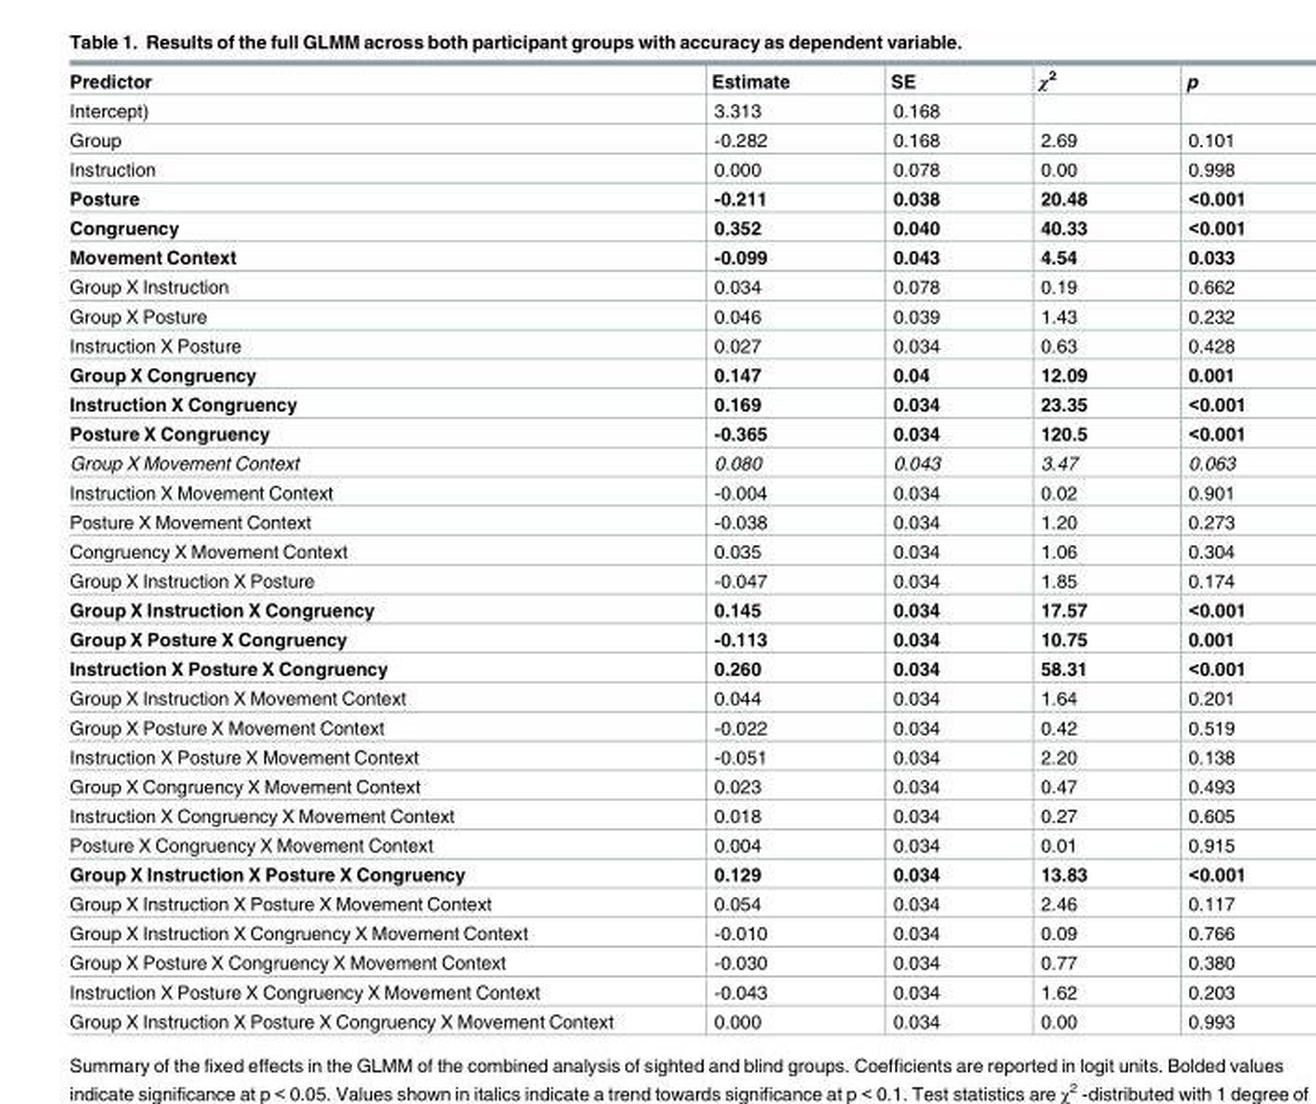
<table><thead><tr><td>Predictor</td><td>Estimate</td><td>SE</td><td>χ<sup>2</sup></td><td>p</td></tr></thead><tbody><tr><td>Intercept)</td><td>3.313</td><td>0.168</td><td></td><td></td></tr><tr><td>Group</td><td>-0.282</td><td>0.168</td><td>2.69</td><td>0.101</td></tr><tr><td>Instruction</td><td>0.000</td><td>0.078</td><td>0.00</td><td>0.998</td></tr><tr><td>Posture</td><td>-0.211</td><td>0.038</td><td>20.48</td><td>&lt;0.001</td></tr><tr><td>Congruency</td><td>0.352</td><td>0.040</td><td>40.33</td><td>&lt;0.001</td></tr><tr><td>Movement Context</td><td>-0.099</td><td>0.043</td><td>4.54</td><td>0.033</td></tr><tr><td>Group X Instruction</td><td>0.034</td><td>0.078</td><td>0.19</td><td>0.662</td></tr><tr><td>Group X Posture</td><td>0.046</td><td>0.039</td><td>1.43</td><td>0.232</td></tr><tr><td>Instruction X Posture</td><td>0.027</td><td>0.034</td><td>0.63</td><td>0.428</td></tr><tr><td>Group X Congruency</td><td>0.147</td><td>0.04</td><td>12.09</td><td>0.001</td></tr><tr><td>Instruction X Congruency</td><td>0.169</td><td>0.034</td><td>23.35</td><td>&lt;0.001</td></tr><tr><td>Posture X Congruency</td><td>-0.365</td><td>0.034</td><td>120.5</td><td>&lt;0.001</td></tr><tr><td>Group X Movement Context</td><td>0.080</td><td>0.043</td><td>3.47</td><td>0.063</td></tr><tr><td>Instruction X Movement Context</td><td>-0.004</td><td>0.034</td><td>0.02</td><td>0.901</td></tr><tr><td>Posture X Movement Context</td><td>-0.038</td><td>0.034</td><td>1.20</td><td>0.273</td></tr><tr><td>Congruency X Movement Context</td><td>0.035</td><td>0.034</td><td>1.06</td><td>0.304</td></tr><tr><td>Group X Instruction X Posture</td><td>-0.047</td><td>0.034</td><td>1.85</td><td>0.174</td></tr><tr><td>Group X Instruction X Congruency</td><td>0.145</td><td>0.034</td><td>17.57</td><td>&lt;0.001</td></tr><tr><td>Group X Posture X Congruency</td><td>-0.113</td><td>0.034</td><td>10.75</td><td>0.001</td></tr><tr><td>Instruction X Posture X Congruency</td><td>0.260</td><td>0.034</td><td>58.31</td><td>&lt;0.001</td></tr><tr><td>Group X Instruction X Movement Context</td><td>0.044</td><td>0.034</td><td>1.64</td><td>0.201</td></tr><tr><td>Group X Posture X Movement Context</td><td>-0.022</td><td>0.034</td><td>0.42</td><td>0.519</td></tr><tr><td>Instruction X Posture X Movement Context</td><td>-0.051</td><td>0.034</td><td>2.20</td><td>0.138</td></tr><tr><td>Group X Congruency X Movement Context</td><td>0.023</td><td>0.034</td><td>0.47</td><td>0.493</td></tr><tr><td>Instruction X Congruency X Movement Context</td><td>0.018</td><td>0.034</td><td>0.27</td><td>0.605</td></tr><tr><td>Posture X Congruency X Movement Context</td><td>0.004</td><td>0.034</td><td>0.01</td><td>0.915</td></tr><tr><td>Group X Instruction X Posture X Congruency</td><td>0.129</td><td>0.034</td><td>13.83</td><td>&lt;0.001</td></tr><tr><td>Group X Instruction X Posture X Movement Context</td><td>0.054</td><td>0.034</td><td>2.46</td><td>0.117</td></tr><tr><td>Group X Instruction X Congruency X Movement Context</td><td>-0.010</td><td>0.034</td><td>0.09</td><td>0.766</td></tr><tr><td>Group X Posture X Congruency X Movement Context</td><td>-0.030</td><td>0.034</td><td>0.77</td><td>0.380</td></tr><tr><td>Instruction X Posture X Congruency X Movement Context</td><td>-0.043</td><td>0.034</td><td>1.62</td><td>0.203</td></tr><tr><td>Group X Instruction X Posture X Congruency X Movement Context</td><td>0.000</td><td>0.034</td><td>0.00</td><td>0.993</td></tr></tbody></table>